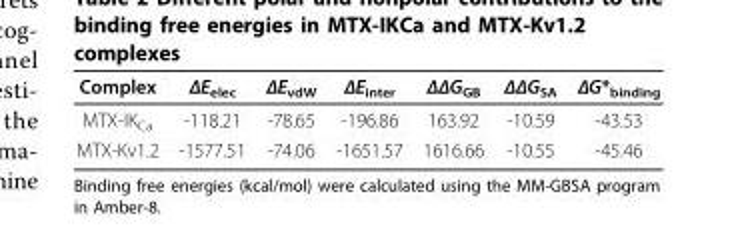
<table><thead><tr><td>Complex</td><td>ΔE<sub>elec</sub></td><td>ΔE<sub>vdW</sub></td><td>ΔE<sub>inter</sub></td><td>ΔΔG<sub>GB</sub></td><td>ΔΔG<sub>SA</sub></td><td>ΔG*<sub>binding</sub></td></tr></thead><tbody><tr><td>MTX-IK<sub>Ca</sub></td><td>-118.21</td><td>-78.65</td><td>-196.86</td><td>163.92</td><td>-10.59</td><td>-43.53</td></tr><tr><td>MTX-Kv1.2</td><td>-1577.51</td><td>-74.06</td><td>-1651.57</td><td>1616.66</td><td>-10.55</td><td>-45.46</td></tr></tbody></table>